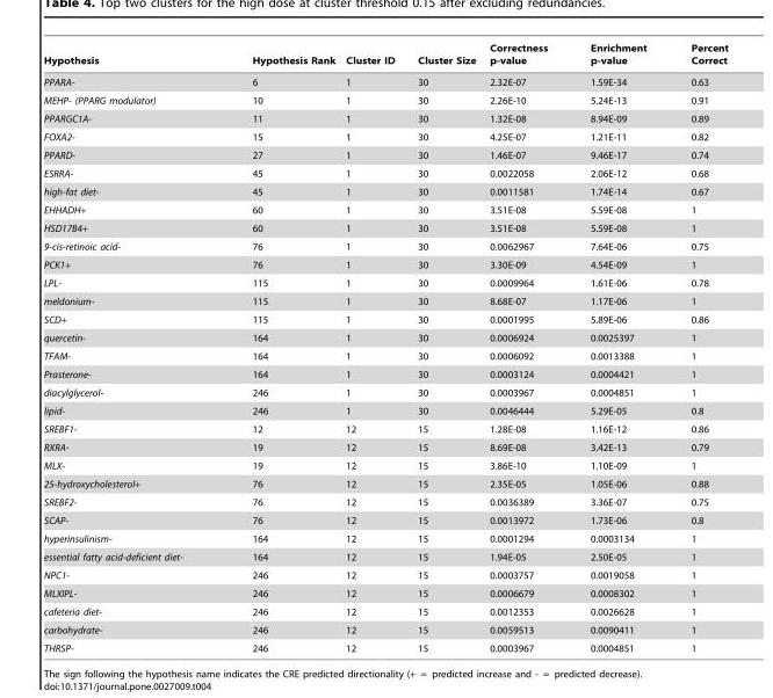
<table><thead><tr><td>Hypothesis</td><td>Hypothesis Rank</td><td>Cluster ID</td><td>Cluster Size</td><td>Correctness p-value</td><td>Enrichment p-value</td><td>Percent Correct</td></tr></thead><tbody><tr><td>PPARA-</td><td>6</td><td>1</td><td>30</td><td>2.32E-07</td><td>1.59E-34</td><td>0.63</td></tr><tr><td>MEHP- (PPARG modulator)</td><td>10</td><td>1</td><td>30</td><td>2.26E-10</td><td>5.24E-13</td><td>0.91</td></tr><tr><td>PPARGC1A-</td><td>11</td><td>1</td><td>30</td><td>1.32E-08</td><td>8.94E-09</td><td>0.89</td></tr><tr><td>FOXA2-</td><td>15</td><td>1</td><td>30</td><td>4.25E-07</td><td>1.21E-11</td><td>0.82</td></tr><tr><td>PPARD-</td><td>27</td><td>1</td><td>30</td><td>1.46E-07</td><td>9.46E-17</td><td>0.74</td></tr><tr><td>ESRRA-</td><td>45</td><td>1</td><td>30</td><td>0.0022058</td><td>2.06E-12</td><td>0.68</td></tr><tr><td>high-fat diet-</td><td>45</td><td>1</td><td>30</td><td>0.0011581</td><td>1.74E-14</td><td>0.67</td></tr><tr><td>EHHADH+</td><td>60</td><td>1</td><td>30</td><td>3.51E-08</td><td>5.59E-08</td><td>1</td></tr><tr><td>HSD17B4+</td><td>60</td><td>1</td><td>30</td><td>3.51E-08</td><td>5.59E-08</td><td>1</td></tr><tr><td>9-cis-retinoic acid-</td><td>76</td><td>1</td><td>30</td><td>0.0062967</td><td>7.64E-06</td><td>0.75</td></tr><tr><td>PCK1+</td><td>76</td><td>1</td><td>30</td><td>3.30E-09</td><td>4.54E-09</td><td>1</td></tr><tr><td>LPL-</td><td>115</td><td>1</td><td>30</td><td>0.0009964</td><td>1.61E-06</td><td>0.78</td></tr><tr><td>meldonium-</td><td>115</td><td>1</td><td>30</td><td>8.68E-07</td><td>1.17E-06</td><td>1</td></tr><tr><td>SCD+</td><td>115</td><td>1</td><td>30</td><td>0.0001995</td><td>5.89E-06</td><td>0.86</td></tr><tr><td>quercetin-</td><td>164</td><td>1</td><td>30</td><td>0.0006924</td><td>0.0025397</td><td>1</td></tr><tr><td>TFAM-</td><td>164</td><td>1</td><td>30</td><td>0.0006092</td><td>0.0013388</td><td>1</td></tr><tr><td>Prasterone-</td><td>164</td><td>1</td><td>30</td><td>0.0003124</td><td>0.0004421</td><td>1</td></tr><tr><td>diacylglycerol-</td><td>246</td><td>1</td><td>30</td><td>0.0003967</td><td>0.0004851</td><td>1</td></tr><tr><td>lipid-</td><td>246</td><td>1</td><td>30</td><td>0.0046444</td><td>5.29E-05</td><td>0.8</td></tr><tr><td>SREBF1-</td><td>12</td><td>12</td><td>15</td><td>1.28E-08</td><td>1.16E-12</td><td>0.86</td></tr><tr><td>RXRA-</td><td>19</td><td>12</td><td>15</td><td>8.69E-08</td><td>3.42E-13</td><td>0.79</td></tr><tr><td>MLX-</td><td>19</td><td>12</td><td>15</td><td>3.86E-10</td><td>1.10E-09</td><td>1</td></tr><tr><td>25-hydroxycholesterol+</td><td>76</td><td>12</td><td>15</td><td>2.35E-05</td><td>1.05E-06</td><td>0.88</td></tr><tr><td>SREBF2-</td><td>76</td><td>12</td><td>15</td><td>0.0036389</td><td>3.36E-07</td><td>0.75</td></tr><tr><td>SCAP-</td><td>76</td><td>12</td><td>15</td><td>0.0013972</td><td>1.73E-06</td><td>0.8</td></tr><tr><td>hyperinsulinism-</td><td>164</td><td>12</td><td>15</td><td>0.0001294</td><td>0.0003134</td><td>1</td></tr><tr><td>essential fatty acid-deficient diet-</td><td>164</td><td>12</td><td>15</td><td>1.94E-05</td><td>2.50E-05</td><td>1</td></tr><tr><td>NPC1-</td><td>246</td><td>12</td><td>15</td><td>0.0003757</td><td>0.0019058</td><td>1</td></tr><tr><td>MLXIPL-</td><td>246</td><td>12</td><td>15</td><td>0.0006679</td><td>0.0008302</td><td>1</td></tr><tr><td>cafeteria diet-</td><td>246</td><td>12</td><td>15</td><td>0.0012353</td><td>0.0026628</td><td>1</td></tr><tr><td>carbohydrate-</td><td>246</td><td>12</td><td>15</td><td>0.0059513</td><td>0.0090411</td><td>1</td></tr><tr><td>THRSP-</td><td>246</td><td>12</td><td>15</td><td>0.0003967</td><td>0.0004851</td><td>1</td></tr></tbody></table>